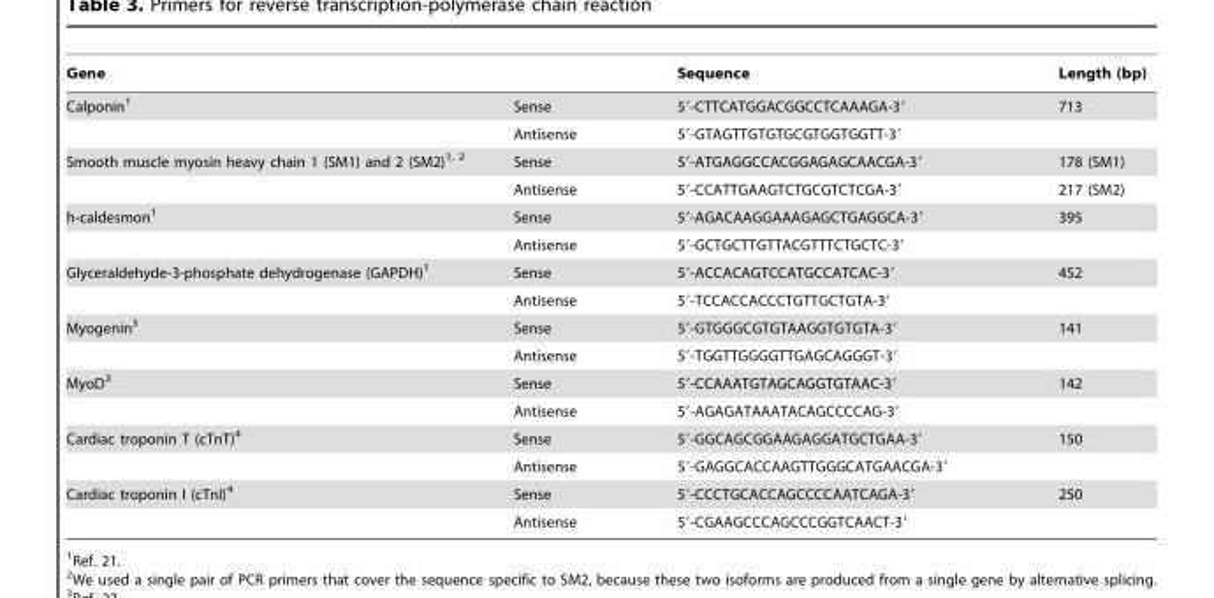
<table><thead><tr><td>Gene</td><td></td><td>Sequence</td><td>Length (bp)</td></tr></thead><tbody><tr><td rowspan="2">Calponin<sup>1</sup></td><td>Sense</td><td>5′-CTTCATGGACGGCCTCAAAGA-3′</td><td>713</td></tr><tr><td>Antisense</td><td>5′-GTAGTTGTGTGCGTGGTGGTT-3′</td><td></td></tr><tr><td rowspan="2">Smooth muscle myosin heavy chain 1 (SM1) and 2 (SM2)<sup>1</sup>, <sup>2</sup></td><td>Sense</td><td>5′-ATGAGGCCACGGAGAGCAACGA-3′</td><td>178 (SM1)</td></tr><tr><td>Antisense</td><td>5′-CCATTGAAGTCTGCGTCTCGA-3′</td><td>217 (SM2)</td></tr><tr><td rowspan="2">h-caldesmon<sup>1</sup></td><td>Sense</td><td>5′-AGACAAGGAAAGAGCTGAGGCA-3′</td><td>395</td></tr><tr><td>Antisense</td><td>5′-GCTGCTTGTTACGTTTCTGCTC-3′</td><td></td></tr><tr><td rowspan="2">Glyceraldehyde-3-phosphate dehydrogenase (GAPDH)<sup>1</sup></td><td>Sense</td><td>5′-ACCACAGTCCATGCCATCAC-3′</td><td>452</td></tr><tr><td>Antisense</td><td>5′-TCCACCACCCTGTTGCTGTA-3′</td><td></td></tr><tr><td rowspan="2">Myogenin<sup>3</sup></td><td>Sense</td><td>5′-GTGGGCGTGTAAGGTGTGTA-3′</td><td>141</td></tr><tr><td>Antisense</td><td>5′-TGGTTGGGGTTGAGCAGGGT-3′</td><td></td></tr><tr><td rowspan="2">MyoD<sup>3</sup></td><td>Sense</td><td>5′-CCAAATGTAGCAGGTGTAAC-3′</td><td>142</td></tr><tr><td>Antisense</td><td>5′-AGAGATAAATACAGCCCCAG-3′</td><td></td></tr><tr><td rowspan="2">Cardiac troponin T (cTnT)<sup>4</sup></td><td>Sense</td><td>5′-GGCAGCGGAAGAGGATGCTGAA-3′</td><td>150</td></tr><tr><td>Antisense</td><td>5′-GAGGCACCAAGTTGGGCATGAACGA-3′</td><td></td></tr><tr><td rowspan="2">Cardiac troponin I (cTnI)<sup>4</sup></td><td>Sense</td><td>5′-CCCTGCACCAGCCCCAATCAGA-3′</td><td>250</td></tr><tr><td>Antisense</td><td>5′-CGAAGCCCAGCCCGGTCAACT-3′</td><td></td></tr></tbody></table>